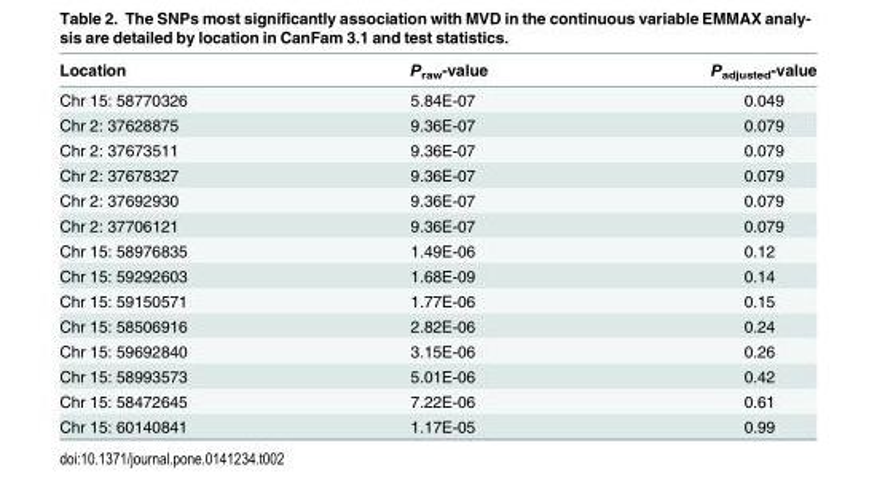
<table><thead><tr><td>Location</td><td>P<sub>raw</sub>-value</td><td>P<sub>adjusted</sub>-value</td></tr></thead><tbody><tr><td>Chr 15: 58770326</td><td>5.84E-07</td><td>0.049</td></tr><tr><td>Chr 2: 37628875</td><td>9.36E-07</td><td>0.079</td></tr><tr><td>Chr 2: 37673511</td><td>9.36E-07</td><td>0.079</td></tr><tr><td>Chr 2: 37678327</td><td>9.36E-07</td><td>0.079</td></tr><tr><td>Chr 2: 37692930</td><td>9.36E-07</td><td>0.079</td></tr><tr><td>Chr 2: 37706121</td><td>9.36E-07</td><td>0.079</td></tr><tr><td>Chr 15: 58976835</td><td>1.49E-06</td><td>0.12</td></tr><tr><td>Chr 15: 59292603</td><td>1.68E-09</td><td>0.14</td></tr><tr><td>Chr 15: 59150571</td><td>1.77E-06</td><td>0.15</td></tr><tr><td>Chr 15: 58506916</td><td>2.82E-06</td><td>0.24</td></tr><tr><td>Chr 15: 59692840</td><td>3.15E-06</td><td>0.26</td></tr><tr><td>Chr 15: 58993573</td><td>5.01E-06</td><td>0.42</td></tr><tr><td>Chr 15: 58472645</td><td>7.22E-06</td><td>0.61</td></tr><tr><td>Chr 15: 60140841</td><td>1.17E-05</td><td>0.99</td></tr></tbody></table>